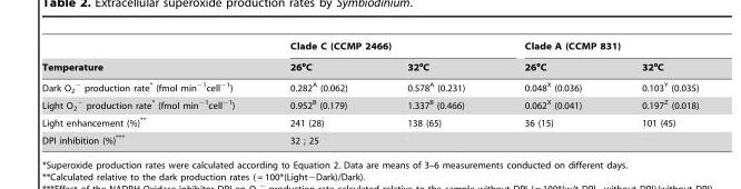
<table><thead><tr><td rowspan="2">Temperature</td><td colspan="2">Clade C (CCMP 2466)</td><td colspan="2">Clade A (CCMP 831)</td></tr><tr><td>26°C</td><td>32°C</td><td>26°C</td><td>32°C</td></tr></thead><tbody><tr><td>Dark O<sub>2</sub> <sup>−</sup> production rate* (fmol min<sup>−1</sup>cell<sup>−1</sup>)</td><td>0.282<sup>A</sup> (0.062)</td><td>0.578<sup>A</sup> (0.231)</td><td>0.048<sup>X</sup> (0.036)</td><td>0.103<sup>Y</sup> (0.035)</td></tr><tr><td>Light O<sub>2</sub> <sup>−</sup> production rate* (fmol min<sup>−1</sup>cell<sup>−1</sup>)</td><td>0.952<sup>B</sup> (0.179)</td><td>1.337<sup>B</sup> (0.466)</td><td>0.062<sup>X</sup> (0.041)</td><td>0.197<sup>Z</sup> (0.018)</td></tr><tr><td>Light enhancement (%)**</td><td>241 (28)</td><td>138 (65)</td><td>36 (15)</td><td>101 (45)</td></tr><tr><td>DPI inhibition (%)***</td><td>32 ; 25</td><td></td><td></td><td></td></tr></tbody></table>